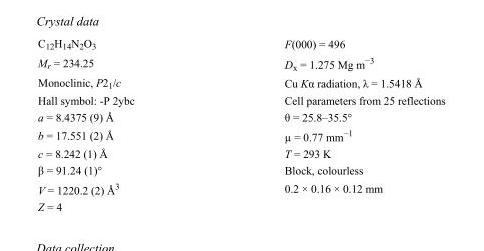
<table><tbody><tr><td>C<sub>12</sub>H<sub>14</sub>N<sub>2</sub>O<sub>3</sub></td><td>F(000) = 496</td></tr><tr><td>M<sub>r</sub> = 234.25</td><td>D<sub>x</sub> = 1.275 Mg m<sup>−3</sup></td></tr><tr><td>Monoclinic, P2<sub>1</sub>/c</td><td>Cu Kα radiation, λ = 1.5418 Å</td></tr><tr><td>Hall symbol: -P 2ybc</td><td>Cell parameters from 25 reflections</td></tr><tr><td>a = 8.4375 (9) Å</td><td>θ = 25.8–35.5°</td></tr><tr><td>b = 17.551 (2) Å</td><td>µ = 0.77 mm<sup>−1</sup></td></tr><tr><td>c = 8.242 (1) Å</td><td>T = 293 K</td></tr><tr><td>β = 91.24 (1)°</td><td>Block, colourless</td></tr><tr><td>V = 1220.2 (2) Å<sup>3</sup></td><td>0.2 × 0.16 × 0.12 mm</td></tr><tr><td>Z = 4</td><td></td></tr></tbody></table>